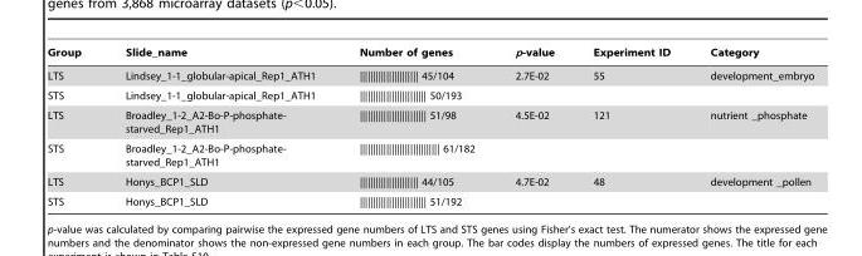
<table><thead><tr><td>Group</td><td>Slide_name</td><td>Number of genes</td><td>p-value</td><td>Experiment ID</td><td>Category</td></tr></thead><tbody><tr><td>LTS</td><td>Lindsey_1-1_globular-apical_Rep1_ATH1</td><td>|||||||||||||||||||||| 45/104</td><td>2.7E-02</td><td>55</td><td>development_embryo</td></tr><tr><td>STS</td><td>Lindsey_1-1_globular-apical_Rep1_ATH1</td><td>||||||||||||||||||||||||| 50/193</td><td></td><td></td><td></td></tr><tr><td>LTS</td><td>Broadley_1-2_A2-Bo-P-phosphate- starved_Rep1_ATH1</td><td>||||||||||||||||||||||||| 51/98</td><td>4.5E-02</td><td>121</td><td>nutrient _phosphate</td></tr><tr><td>STS</td><td>Broadley_1-2_A2-Bo-P-phosphate- starved_Rep1_ATH1</td><td>|||||||||||||||||||||||||||||| 61/182</td><td></td><td></td><td></td></tr><tr><td>LTS</td><td>Honys_BCP1_SLD</td><td>|||||||||||||||||||||| 44/105</td><td>4.7E-02</td><td>48</td><td>development _pollen</td></tr><tr><td>STS</td><td>Honys_BCP1_SLD</td><td>||||||||||||||||||||||||| 51/192</td><td></td><td></td><td></td></tr></tbody></table>